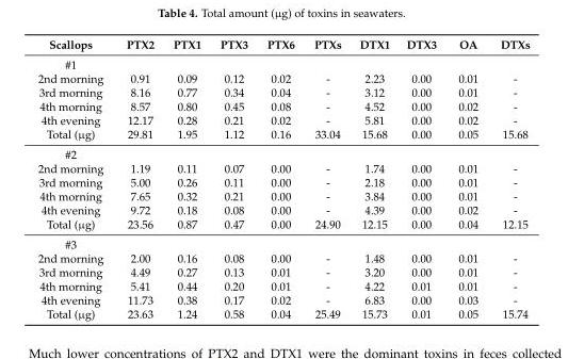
<table><thead><tr><td>Scallops</td><td>PTX2</td><td>PTX1</td><td>PTX3</td><td>PTX6</td><td>PTXs</td><td>DTX1</td><td>DTX3</td><td>OA</td><td>DTXs</td></tr></thead><tbody><tr><td colspan="10">#1</td></tr><tr><td>2nd morning</td><td>0.91</td><td>0.09</td><td>0.12</td><td>0.02</td><td>-</td><td>2.23</td><td>0.00</td><td>0.01</td><td>-</td></tr><tr><td>3rd morning</td><td>8.16</td><td>0.77</td><td>0.34</td><td>0.04</td><td>-</td><td>3.12</td><td>0.00</td><td>0.01</td><td>-</td></tr><tr><td>4th morning</td><td>8.57</td><td>0.80</td><td>0.45</td><td>0.08</td><td>-</td><td>4.52</td><td>0.00</td><td>0.02</td><td>-</td></tr><tr><td>4th evening</td><td>12.17</td><td>0.28</td><td>0.21</td><td>0.02</td><td>-</td><td>5.81</td><td>0.00</td><td>0.02</td><td>-</td></tr><tr><td>Total (µg)</td><td>29.81</td><td>1.95</td><td>1.12</td><td>0.16</td><td>33.04</td><td>15.68</td><td>0.00</td><td>0.05</td><td>15.68</td></tr><tr><td colspan="10">#2</td></tr><tr><td>2nd morning</td><td>1.19</td><td>0.11</td><td>0.07</td><td>0.00</td><td>-</td><td>1.74</td><td>0.00</td><td>0.01</td><td>-</td></tr><tr><td>3rd morning</td><td>5.00</td><td>0.26</td><td>0.11</td><td>0.00</td><td>-</td><td>2.18</td><td>0.00</td><td>0.01</td><td>-</td></tr><tr><td>4th morning</td><td>7.65</td><td>0.32</td><td>0.21</td><td>0.00</td><td>-</td><td>3.84</td><td>0.00</td><td>0.01</td><td>-</td></tr><tr><td>4th evening</td><td>9.72</td><td>0.18</td><td>0.08</td><td>0.00</td><td>-</td><td>4.39</td><td>0.00</td><td>0.02</td><td>-</td></tr><tr><td>Total (µg)</td><td>23.56</td><td>0.87</td><td>0.47</td><td>0.00</td><td>24.90</td><td>12.15</td><td>0.00</td><td>0.04</td><td>12.15</td></tr><tr><td colspan="10">#3</td></tr><tr><td>2nd morning</td><td>2.00</td><td>0.16</td><td>0.08</td><td>0.00</td><td>-</td><td>1.48</td><td>0.00</td><td>0.01</td><td>-</td></tr><tr><td>3rd morning</td><td>4.49</td><td>0.27</td><td>0.13</td><td>0.01</td><td>-</td><td>3.20</td><td>0.00</td><td>0.01</td><td>-</td></tr><tr><td>4th morning</td><td>5.41</td><td>0.44</td><td>0.20</td><td>0.01</td><td>-</td><td>4.22</td><td>0.01</td><td>0.01</td><td>-</td></tr><tr><td>4th evening</td><td>11.73</td><td>0.38</td><td>0.17</td><td>0.02</td><td>-</td><td>6.83</td><td>0.00</td><td>0.03</td><td>-</td></tr><tr><td>Total (µg)</td><td>23.63</td><td>1.24</td><td>0.58</td><td>0.04</td><td>25.49</td><td>15.73</td><td>0.01</td><td>0.05</td><td>15.74</td></tr></tbody></table>